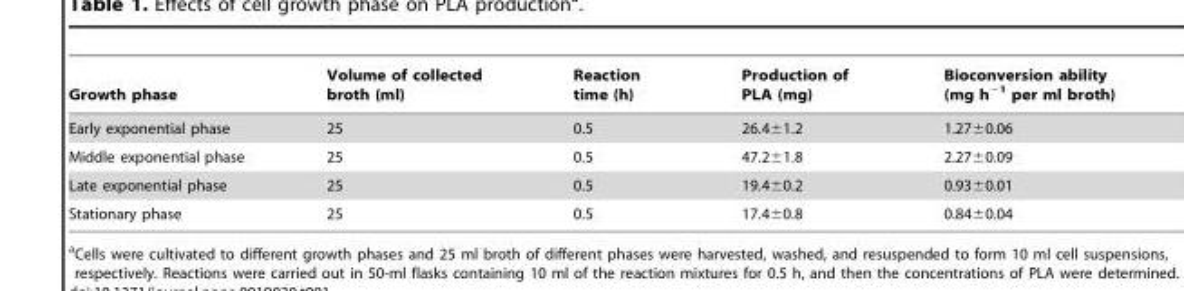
<table><thead><tr><td>Growth phase</td><td>Volume of collected broth (ml)</td><td>Reaction time (h)</td><td>Production of PLA (mg)</td><td>Bioconversion ability (mg h<sup>−1</sup> per ml broth)</td></tr></thead><tbody><tr><td>Early exponential phase</td><td>25</td><td>0.5</td><td>26.4±1.2</td><td>1.27±0.06</td></tr><tr><td>Middle exponential phase</td><td>25</td><td>0.5</td><td>47.2±1.8</td><td>2.27±0.09</td></tr><tr><td>Late exponential phase</td><td>25</td><td>0.5</td><td>19.4±0.2</td><td>0.93±0.01</td></tr><tr><td>Stationary phase</td><td>25</td><td>0.5</td><td>17.4±0.8</td><td>0.84±0.04</td></tr></tbody></table>